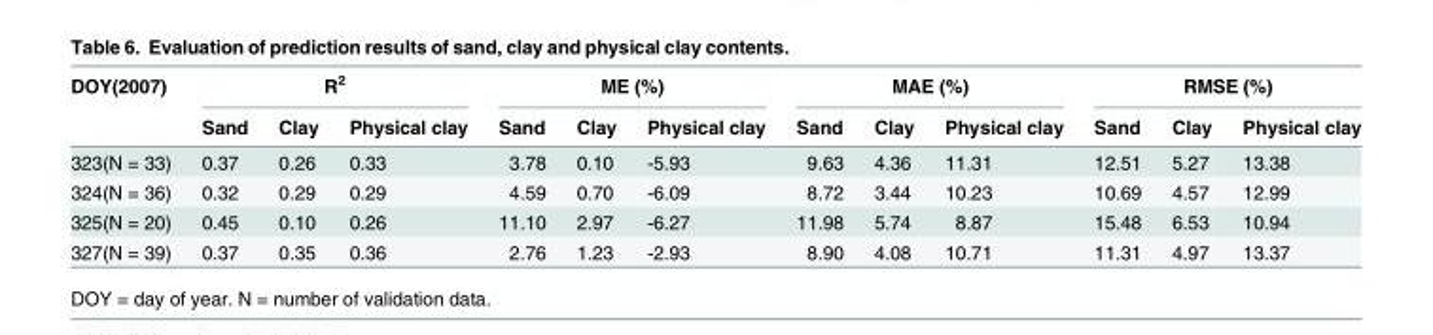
<table><thead><tr><td rowspan="2">DOY(2007)</td><td colspan="3">R<sup>2</sup></td><td colspan="3">ME (%)</td><td colspan="3">MAE (%)</td><td colspan="3">RMSE (%)</td></tr><tr><td>Sand</td><td>Clay</td><td>Physical clay</td><td>Sand</td><td>Clay</td><td>Physical clay</td><td>Sand</td><td>Clay</td><td>Physical clay</td><td>Sand</td><td>Clay</td><td>Physical clay</td></tr></thead><tbody><tr><td>323(N = 33)</td><td>0.37</td><td>0.26</td><td>0.33</td><td>3.78</td><td>0.10</td><td>-5.93</td><td>9.63</td><td>4.36</td><td>11.31</td><td>12.51</td><td>5.27</td><td>13.38</td></tr><tr><td>324(N = 36)</td><td>0.32</td><td>0.29</td><td>0.29</td><td>4.59</td><td>0.70</td><td>-6.09</td><td>8.72</td><td>3.44</td><td>10.23</td><td>10.69</td><td>4.57</td><td>12.99</td></tr><tr><td>325(N = 20)</td><td>0.45</td><td>0.10</td><td>0.26</td><td>11.10</td><td>2.97</td><td>-6.27</td><td>11.98</td><td>5.74</td><td>8.87</td><td>15.48</td><td>6.53</td><td>10.94</td></tr><tr><td>327(N = 39)</td><td>0.37</td><td>0.35</td><td>0.36</td><td>2.76</td><td>1.23</td><td>-2.93</td><td>8.90</td><td>4.08</td><td>10.71</td><td>11.31</td><td>4.97</td><td>13.37</td></tr></tbody></table>